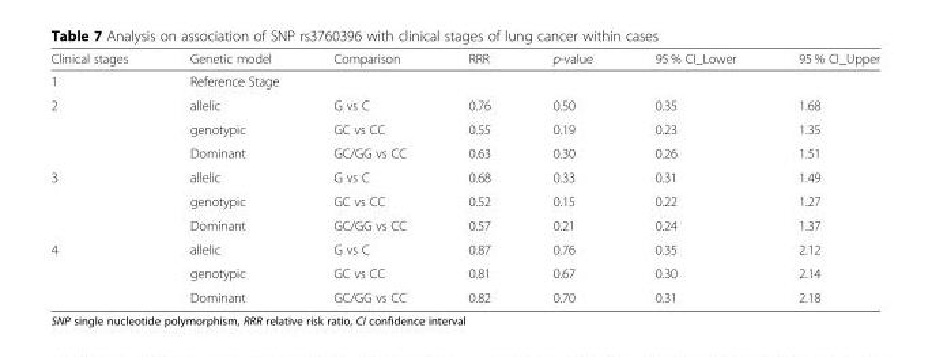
<table><thead><tr><td>Clinical stages</td><td>Genetic model</td><td>Comparison</td><td>RRR</td><td>p-value</td><td>95 % CI_Lower</td><td>95 % CI_Upper</td></tr></thead><tbody><tr><td>1</td><td colspan="2">Reference Stage</td><td></td><td></td><td></td><td></td></tr><tr><td rowspan="3">2</td><td>allelic</td><td>G vs C</td><td>0.76</td><td>0.50</td><td>0.35</td><td>1.68</td></tr><tr><td>genotypic</td><td>GC vs CC</td><td>0.55</td><td>0.19</td><td>0.23</td><td>1.35</td></tr><tr><td>Dominant</td><td>GC/GG vs CC</td><td>0.63</td><td>0.30</td><td>0.26</td><td>1.51</td></tr><tr><td rowspan="3">3</td><td>allelic</td><td>G vs C</td><td>0.68</td><td>0.33</td><td>0.31</td><td>1.49</td></tr><tr><td>genotypic</td><td>GC vs CC</td><td>0.52</td><td>0.15</td><td>0.22</td><td>1.27</td></tr><tr><td>Dominant</td><td>GC/GG vs CC</td><td>0.57</td><td>0.21</td><td>0.24</td><td>1.37</td></tr><tr><td rowspan="3">4</td><td>allelic</td><td>G vs C</td><td>0.87</td><td>0.76</td><td>0.35</td><td>2.12</td></tr><tr><td>genotypic</td><td>GC vs CC</td><td>0.81</td><td>0.67</td><td>0.30</td><td>2.14</td></tr><tr><td>Dominant</td><td>GC/GG vs CC</td><td>0.82</td><td>0.70</td><td>0.31</td><td>2.18</td></tr></tbody></table>